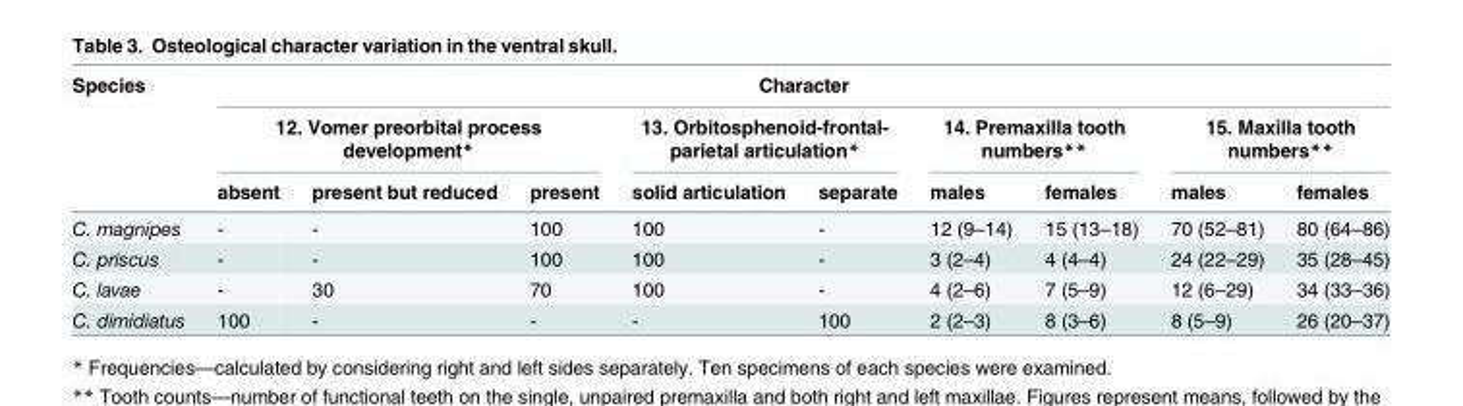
<table><thead><tr><td rowspan="3">Species</td><td colspan="9">Character</td></tr><tr><td colspan="3">12. Vomer preorbital process development*</td><td colspan="2">13. Orbitosphenoid-frontal- parietal articulation*</td><td colspan="2">14. Premaxilla tooth numbers**</td><td colspan="2">15. Maxilla tooth numbers**</td></tr><tr><td>absent</td><td>present but reduced</td><td>present</td><td>solid articulation</td><td>separate</td><td>males</td><td>females</td><td>males</td><td>females</td></tr></thead><tbody><tr><td>C. magnipes</td><td>-</td><td>-</td><td>100</td><td>100</td><td>-</td><td>12 (9–14)</td><td>15 (13–18)</td><td>70 (52–81)</td><td>80 (64–86)</td></tr><tr><td>C. priscus</td><td>-</td><td>-</td><td>100</td><td>100</td><td>-</td><td>3 (2–4)</td><td>4 (4–4)</td><td>24 (22–29)</td><td>35 (28–45)</td></tr><tr><td>C. lavae</td><td>-</td><td>30</td><td>70</td><td>100</td><td>-</td><td>4 (2–6)</td><td>7 (5–9)</td><td>12 (6–29)</td><td>34 (33–36)</td></tr><tr><td>C. dimidiatus</td><td>100</td><td>-</td><td>-</td><td>-</td><td>100</td><td>2 (2–3)</td><td>8 (3–6)</td><td>8 (5–9)</td><td>26 (20–37)</td></tr></tbody></table>